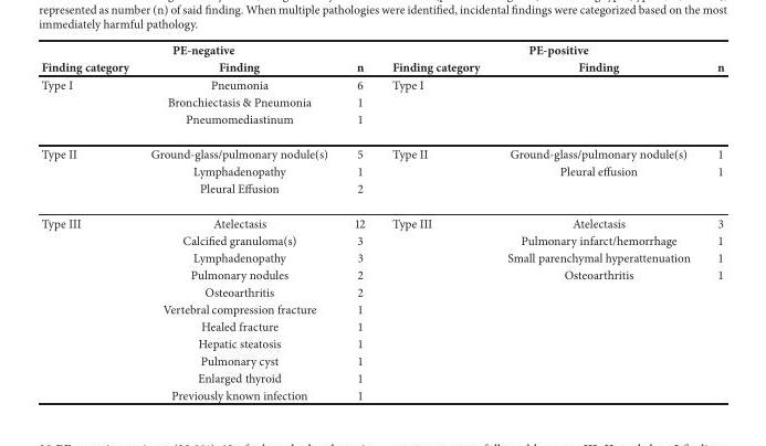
<table><thead><tr><td colspan="3">PE-negative</td><td colspan="3">PE-positive</td></tr><tr><td>Finding category</td><td>Finding</td><td>n</td><td>Finding category</td><td>Finding</td><td>n</td></tr></thead><tbody><tr><td rowspan="3">Type I</td><td>Pneumonia</td><td>6</td><td>Type I</td><td></td><td></td></tr><tr><td>Bronchiectasis &amp; Pneumonia</td><td>1</td><td></td><td></td><td></td></tr><tr><td>Pneumomediastinum</td><td>1</td><td></td><td></td><td></td></tr><tr><td rowspan="3">Type II</td><td>Ground-glass/pulmonary nodule(s)</td><td>5</td><td>Type II</td><td>Ground-glass/pulmonary nodule(s)</td><td>1</td></tr><tr><td>Lymphadenopathy</td><td>1</td><td></td><td>Pleural effusion</td><td>1</td></tr><tr><td>Pleural Effusion</td><td>2</td><td></td><td></td><td></td></tr><tr><td rowspan="11">Type III</td><td>Atelectasis</td><td>12</td><td>Type III</td><td>Atelectasis</td><td>3</td></tr><tr><td>Calcified granuloma(s)</td><td>3</td><td></td><td>Pulmonary infarct/hemorrhage</td><td>1</td></tr><tr><td>Lymphadenopathy</td><td>3</td><td></td><td>Small parenchymal hyperattenuation</td><td>1</td></tr><tr><td>Pulmonary nodules</td><td>2</td><td></td><td>Osteoarthritis</td><td>1</td></tr><tr><td>Osteoarthritis</td><td>2</td><td></td><td></td><td></td></tr><tr><td>Vertebral compression fracture</td><td>1</td><td></td><td></td><td></td></tr><tr><td>Healed fracture</td><td>1</td><td></td><td></td><td></td></tr><tr><td>Hepatic steatosis</td><td>1</td><td></td><td></td><td></td></tr><tr><td>Pulmonary cyst</td><td>1</td><td></td><td></td><td></td></tr><tr><td>Enlarged thyroid</td><td>1</td><td></td><td></td><td></td></tr><tr><td>Previously known infection</td><td>1</td><td></td><td></td><td></td></tr></tbody></table>